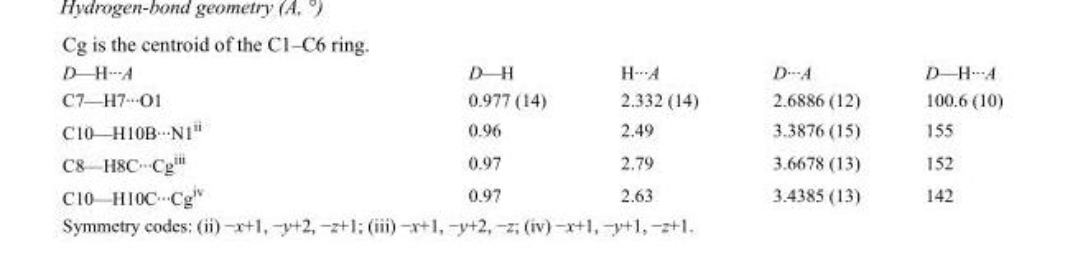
<table><tbody><tr><td>D—H···A</td><td>D—H</td><td>H···A</td><td>D···A</td><td>D—H···A</td></tr><tr><td>C7—H7···O1</td><td>0.977 (14)</td><td>2.332 (14)</td><td>2.6886 (12)</td><td>100.6 (10)</td></tr><tr><td>C10—H10B···N1<sup>ii</sup></td><td>0.96</td><td>2.49</td><td>3.3876 (15)</td><td>155</td></tr><tr><td>C8—H8C···Cg<sup>iii</sup></td><td>0.97</td><td>2.79</td><td>3.6678 (13)</td><td>152</td></tr><tr><td>C10—H10C···Cg<sup>iv</sup></td><td>0.97</td><td>2.63</td><td>3.4385 (13)</td><td>142</td></tr></tbody></table>